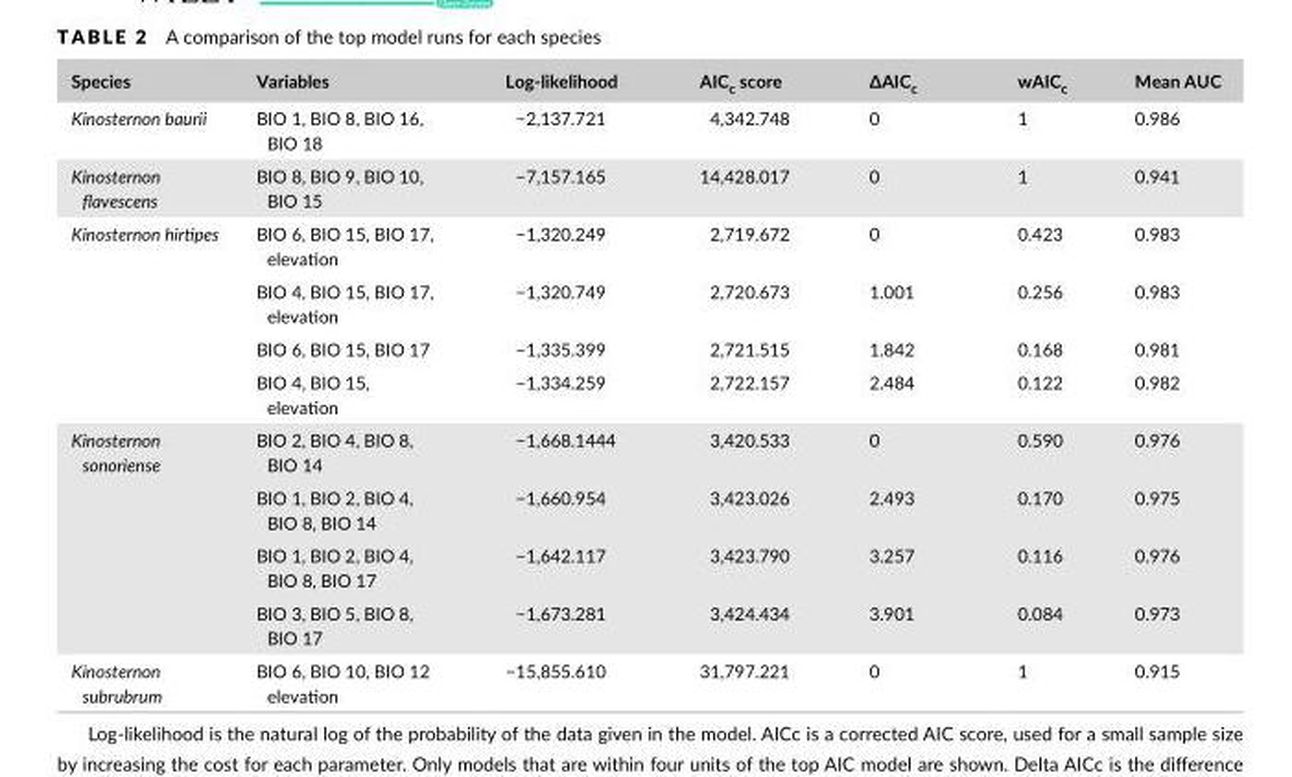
<table><thead><tr><td>Species</td><td>Variables</td><td>Log- likelihood</td><td>AIC<sub>c</sub> score</td><td>ΔAIC<sub>c</sub></td><td>wAIC<sub>c</sub></td><td>Mean AUC</td></tr></thead><tbody><tr><td>Kinosternon baurii</td><td>BIO 1, BIO 8, BIO 16, BIO 18</td><td>−2,137.721</td><td>4,342.748</td><td>0</td><td>1</td><td>0.986</td></tr><tr><td>K inosternon flavescens</td><td>BIO 8, BIO 9, BIO 10, BIO 15</td><td>−7,157.165</td><td>14,428.017</td><td>0</td><td>1</td><td>0.941</td></tr><tr><td rowspan="4">Kinosternon hirtipes</td><td>BIO 6, BIO 15, BIO 17, elevation</td><td>−1,320.249</td><td>2,719.672</td><td>0</td><td>0.423</td><td>0.983</td></tr><tr><td>BIO 4, BIO 15, BIO 17, elevation</td><td>−1,320.749</td><td>2,720.673</td><td>1.001</td><td>0.256</td><td>0.983</td></tr><tr><td>BIO 6, BIO 15, BIO 17</td><td>−1,335.399</td><td>2,721.515</td><td>1.842</td><td>0.168</td><td>0.981</td></tr><tr><td>BIO 4, BIO 15, elevation</td><td>−1,334.259</td><td>2,722.157</td><td>2.484</td><td>0.122</td><td>0.982</td></tr><tr><td rowspan="4">K inosternon sonoriense</td><td>BIO 2, BIO 4, BIO 8, BIO 14</td><td>−1,668.1444</td><td>3,420.533</td><td>0</td><td>0.590</td><td>0.976</td></tr><tr><td>BIO 1, BIO 2, BIO 4, BIO 8, BIO 14</td><td>−1,660.954</td><td>3,423.026</td><td>2.493</td><td>0.170</td><td>0.975</td></tr><tr><td>BIO 1, BIO 2, BIO 4, BIO 8, BIO 17</td><td>−1,642.117</td><td>3,423.790</td><td>3.257</td><td>0.116</td><td>0.976</td></tr><tr><td>BIO 3, BIO 5, BIO 8, BIO 17</td><td>−1,673.281</td><td>3,424.434</td><td>3.901</td><td>0.084</td><td>0.973</td></tr><tr><td>K inosternon subrubrum</td><td>BIO 6, BIO 10, BIO 12 elevation</td><td>−15,855.610</td><td>31,797.221</td><td>0</td><td>1</td><td>0.915</td></tr></tbody></table>